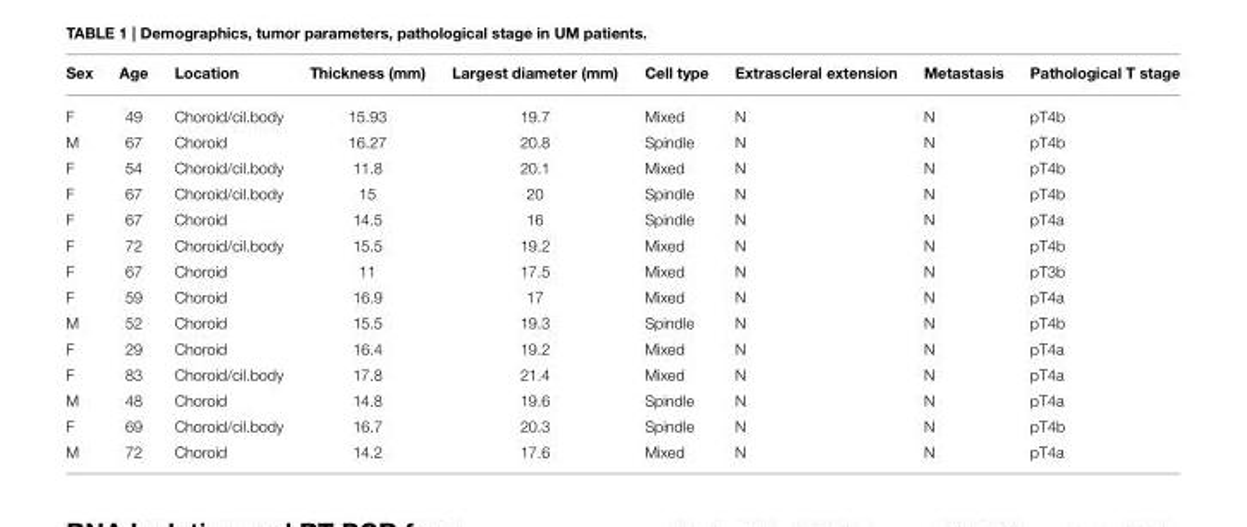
<table><thead><tr><td>Sex</td><td>Age</td><td>Location</td><td>Thickness (mm)</td><td>Largest diameter (mm)</td><td>Cell type</td><td>Extrascleral extension</td><td>Metastasis</td><td>Pathological T stage</td></tr></thead><tbody><tr><td>F</td><td>49</td><td>Choroid/cil.body</td><td>15.93</td><td>19.7</td><td>Mixed</td><td>N</td><td>N</td><td>pT4b</td></tr><tr><td>M</td><td>67</td><td>Choroid</td><td>16.27</td><td>20.8</td><td>Spindle</td><td>N</td><td>N</td><td>pT4b</td></tr><tr><td>F</td><td>54</td><td>Choroid/cil.body</td><td>11.8</td><td>20.1</td><td>Mixed</td><td>N</td><td>N</td><td>pT4b</td></tr><tr><td>F</td><td>67</td><td>Choroid/cil.body</td><td>15</td><td>20</td><td>Spindle</td><td>N</td><td>N</td><td>pT4b</td></tr><tr><td>F</td><td>67</td><td>Choroid</td><td>14.5</td><td>16</td><td>Spindle</td><td>N</td><td>N</td><td>pT4a</td></tr><tr><td>F</td><td>72</td><td>Choroid/cil.body</td><td>15.5</td><td>19.2</td><td>Mixed</td><td>N</td><td>N</td><td>pT4b</td></tr><tr><td>F</td><td>67</td><td>Choroid</td><td>11</td><td>17.5</td><td>Mixed</td><td>N</td><td>N</td><td>pT3b</td></tr><tr><td>F</td><td>59</td><td>Choroid</td><td>16.9</td><td>17</td><td>Mixed</td><td>N</td><td>N</td><td>pT4a</td></tr><tr><td>M</td><td>52</td><td>Choroid</td><td>15.5</td><td>19.3</td><td>Spindle</td><td>N</td><td>N</td><td>pT4b</td></tr><tr><td>F</td><td>29</td><td>Choroid</td><td>16.4</td><td>19.2</td><td>Mixed</td><td>N</td><td>N</td><td>pT4a</td></tr><tr><td>F</td><td>83</td><td>Choroid/cil.body</td><td>17.8</td><td>21.4</td><td>Mixed</td><td>N</td><td>N</td><td>pT4a</td></tr><tr><td>M</td><td>48</td><td>Choroid</td><td>14.8</td><td>19.6</td><td>Spindle</td><td>N</td><td>N</td><td>pT4a</td></tr><tr><td>F</td><td>69</td><td>Choroid/cil.body</td><td>16.7</td><td>20.3</td><td>Spindle</td><td>N</td><td>N</td><td>pT4b</td></tr><tr><td>M</td><td>72</td><td>Choroid</td><td>14.2</td><td>17.6</td><td>Mixed</td><td>N</td><td>N</td><td>pT4a</td></tr></tbody></table>